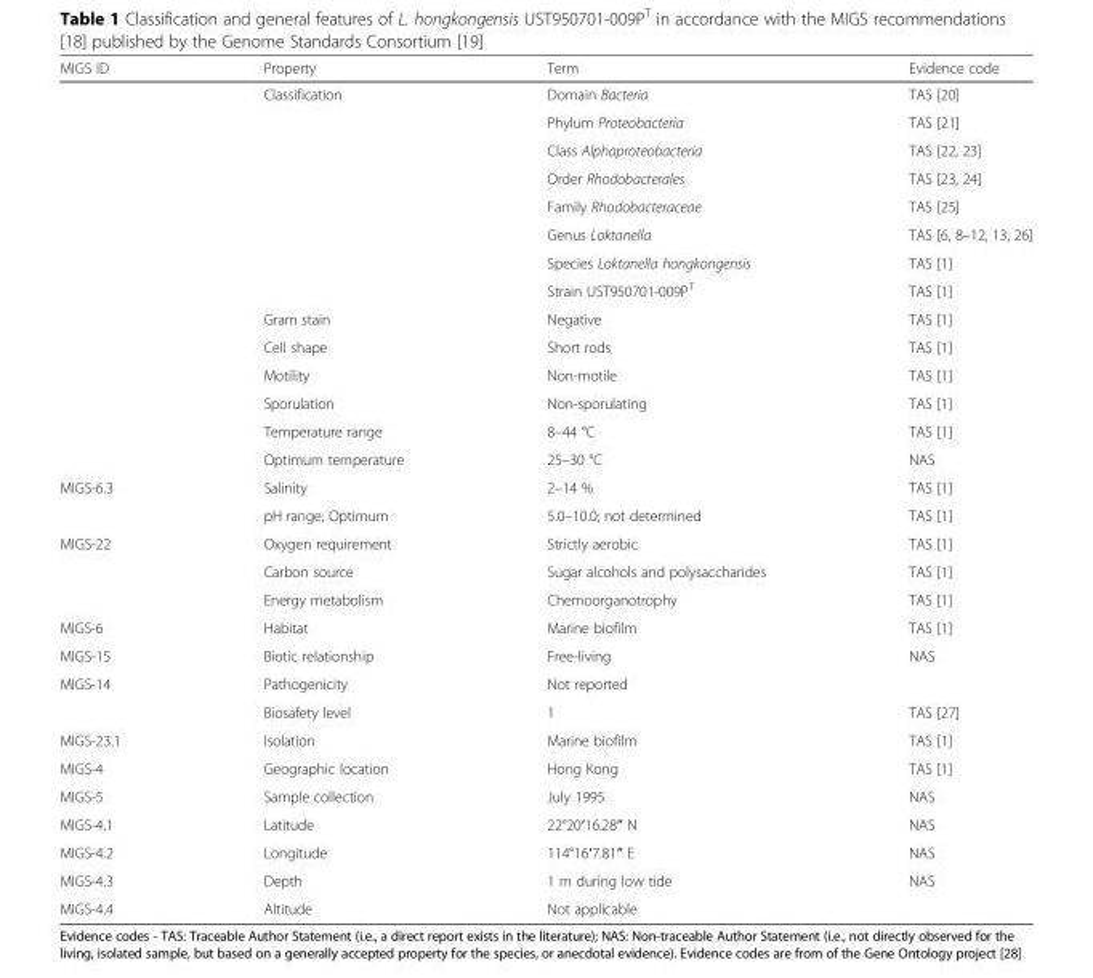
<table><thead><tr><td>MIGS ID</td><td>Property</td><td>Term</td><td>Evidence code</td></tr></thead><tbody><tr><td rowspan="8"></td><td rowspan="8">Classification</td><td>Domain Bacteria</td><td>TAS [20]</td></tr><tr><td>Phylum Proteobacteria</td><td>TAS [21]</td></tr><tr><td>Class Alphaproteobacteria</td><td>TAS [22, 23]</td></tr><tr><td>Order Rhodobacterales</td><td>TAS [23, 24]</td></tr><tr><td>Family Rhodobacteraceae</td><td>TAS [25]</td></tr><tr><td>Genus Loktanella</td><td>TAS [6, 8–12, 13, 26]</td></tr><tr><td>Species Loktanella hongkongensis</td><td>TAS [1]</td></tr><tr><td>Strain UST950701-009P<sup>T</sup></td><td>TAS [1]</td></tr><tr><td></td><td>Gram stain</td><td>Negative</td><td>TAS [1]</td></tr><tr><td></td><td>Cell shape</td><td>Short rods</td><td>TAS [1]</td></tr><tr><td></td><td>Motility</td><td>Non-motile</td><td>TAS [1]</td></tr><tr><td></td><td>Sporulation</td><td>Non-sporulating</td><td>TAS [1]</td></tr><tr><td></td><td>Temperature range</td><td>8–44 °C</td><td>TAS [1]</td></tr><tr><td></td><td>Optimum temperature</td><td>25–30 °C</td><td>NAS</td></tr><tr><td rowspan="2">MIGS-6.3</td><td>Salinity</td><td>2–14 %</td><td>TAS [1]</td></tr><tr><td>pH range; Optimum</td><td>5.0–10.0; not determined</td><td>TAS [1]</td></tr><tr><td rowspan="3">MIGS-22</td><td>Oxygen requirement</td><td>Strictly aerobic</td><td>TAS [1]</td></tr><tr><td>Carbon source</td><td>Sugar alcohols and polysaccharides</td><td>TAS [1]</td></tr><tr><td>Energy metabolism</td><td>Chemoorganotrophy</td><td>TAS [1]</td></tr><tr><td>MIGS-6</td><td>Habitat</td><td>Marine biofilm</td><td>TAS [1]</td></tr><tr><td>MIGS-15</td><td>Biotic relationship</td><td>Free-living</td><td>NAS</td></tr><tr><td rowspan="2">MIGS-14</td><td>Pathogenicity</td><td>Not reported</td><td></td></tr><tr><td>Biosafety level</td><td>1</td><td>TAS [27]</td></tr><tr><td>MIGS-23.1</td><td>Isolation</td><td>Marine biofilm</td><td>TAS [1]</td></tr><tr><td>MIGS-4</td><td>Geographic location</td><td>Hong Kong</td><td>TAS [1]</td></tr><tr><td>MIGS-5</td><td>Sample collection</td><td>July 1995</td><td>NAS</td></tr><tr><td>MIGS-4.1</td><td>Latitude</td><td>22°20′16.28″ N</td><td>NAS</td></tr><tr><td>MIGS-4.2</td><td>Longitude</td><td>114°16′7.81″ E</td><td>NAS</td></tr><tr><td>MIGS-4.3</td><td>Depth</td><td>1 m during low tide</td><td>NAS</td></tr><tr><td>MIGS-4.4</td><td>Altitude</td><td>Not applicable</td><td></td></tr></tbody></table>